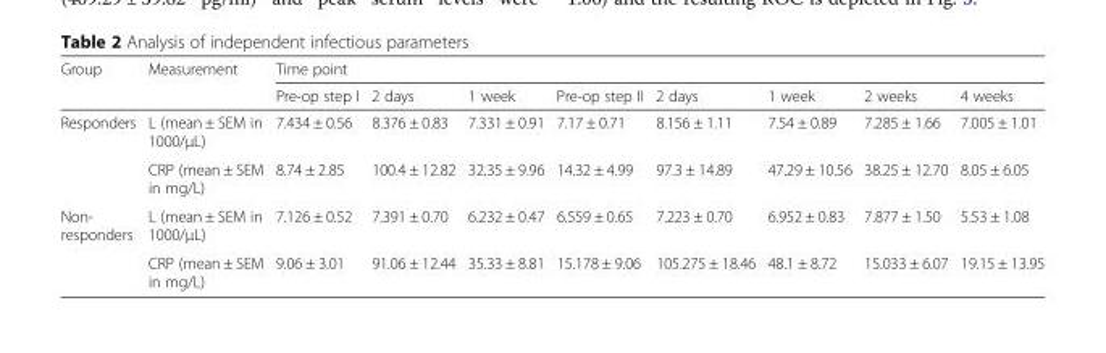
<table><thead><tr><td rowspan="2">Group</td><td rowspan="2">Measurement</td><td colspan="8">Time point</td></tr><tr><td>Pre-op step I</td><td>2 days</td><td>1 week</td><td>Pre-op step II</td><td>2 days</td><td>1 week</td><td>2 weeks</td><td>4 weeks</td></tr></thead><tbody><tr><td rowspan="2">Responders</td><td>L (mean ± SEM in 1000/μL)</td><td>7.434 ± 0.56</td><td>8.376 ± 0.83</td><td>7.331 ± 0.91</td><td>7.17 ± 0.71</td><td>8.156 ± 1.11</td><td>7.54 ± 0.89</td><td>7.285 ± 1.66</td><td>7.005 ± 1.01</td></tr><tr><td>CRP (mean ± SEM in mg/L)</td><td>8.74 ± 2.85</td><td>100.4 ± 12.82</td><td>32.35 ± 9.96</td><td>14.32 ± 4.99</td><td>97.3 ± 14.89</td><td>47.29 ± 10.56</td><td>38.25 ± 12.70</td><td>8.05 ± 6.05</td></tr><tr><td rowspan="2">Non- responders</td><td>L (mean ± SEM in 1000/μL)</td><td>7.126 ± 0.52</td><td>7.391 ± 0.70</td><td>6.232 ± 0.47</td><td>6.559 ± 0.65</td><td>7.223 ± 0.70</td><td>6.952 ± 0.83</td><td>7.877 ± 1.50</td><td>5.53 ± 1.08</td></tr><tr><td>CRP (mean ± SEM in mg/L)</td><td>9.06 ± 3.01</td><td>91.06 ± 12.44</td><td>35.33 ± 8.81</td><td>15.178 ± 9.06</td><td>105.275 ± 18.46</td><td>48.1 ± 8.72</td><td>15.033 ± 6.07</td><td>19.15 ± 13.95</td></tr></tbody></table>